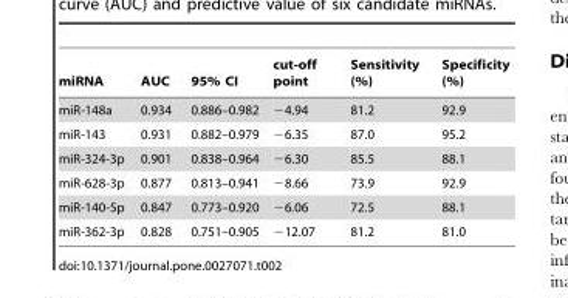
<table><thead><tr><td>miRNA</td><td>AUC</td><td>95% CI</td><td>cut-off point</td><td>Sensitivity (%)</td><td>Specificity (%)</td></tr></thead><tbody><tr><td>miR-148a</td><td>0.934</td><td>0.886–0.982</td><td>−4.94</td><td>81.2</td><td>92.9</td></tr><tr><td>miR-143</td><td>0.931</td><td>0.882–0.979</td><td>−6.35</td><td>87.0</td><td>95.2</td></tr><tr><td>miR-324-3p</td><td>0.901</td><td>0.838–0.964</td><td>−6.30</td><td>85.5</td><td>88.1</td></tr><tr><td>miR-628-3p</td><td>0.877</td><td>0.813–0.941</td><td>−8.66</td><td>73.9</td><td>92.9</td></tr><tr><td>miR-140-5p</td><td>0.847</td><td>0.773–0.920</td><td>−6.06</td><td>72.5</td><td>88.1</td></tr><tr><td>miR-362-3p</td><td>0.828</td><td>0.751–0.905</td><td>−12.07</td><td>81.2</td><td>81.0</td></tr></tbody></table>